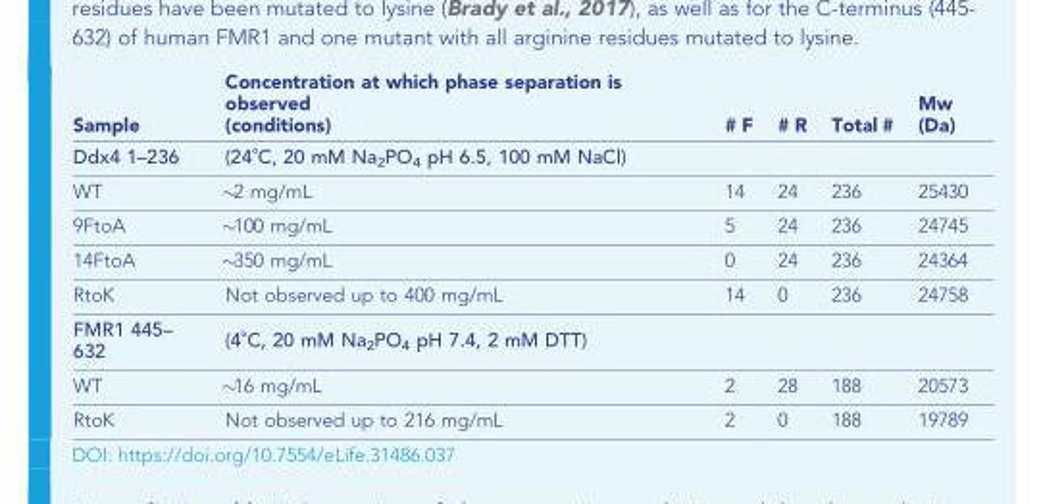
<table><thead><tr><td>Sample</td><td>Concentration at which phase separation is observed (conditions)</td><td># F</td><td># R</td><td>Total #</td><td>Mw (Da)</td></tr></thead><tbody><tr><td>Ddx4 1–236</td><td>(24˚C, 20 mM Na2PO4 pH 6.5, 100 mM NaCl)</td><td></td><td></td><td></td><td></td></tr><tr><td>WT</td><td>~2 mg/mL</td><td>14</td><td>24</td><td>236</td><td>25430</td></tr><tr><td>9FtoA</td><td>~100 mg/mL</td><td>5</td><td>24</td><td>236</td><td>24745</td></tr><tr><td>14FtoA</td><td>~350 mg/mL</td><td>0</td><td>24</td><td>236</td><td>24364</td></tr><tr><td>RtoK</td><td>Not observed up to 400 mg/mL</td><td>14</td><td>0</td><td>236</td><td>24758</td></tr><tr><td>FMR1 445– 632</td><td>(4˚C, 20 mM Na2PO4 pH 7.4, 2 mM DTT)</td><td></td><td></td><td></td><td></td></tr><tr><td>WT</td><td>~16 mg/mL</td><td>2</td><td>28</td><td>188</td><td>20573</td></tr><tr><td>RtoK</td><td>Not observed up to 216 mg/mL</td><td>2</td><td>0</td><td>188</td><td>19789</td></tr></tbody></table>